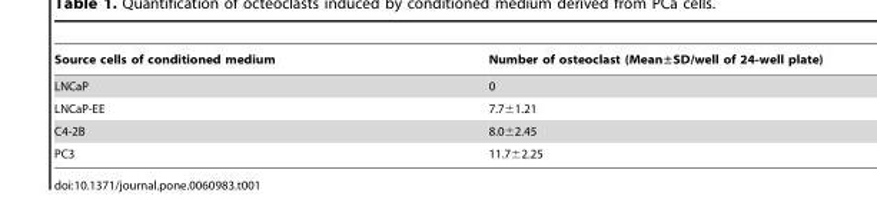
<table><thead><tr><td>Source cells of conditioned medium</td><td>Number of osteoclast (Mean±SD/well of 24-well plate)</td></tr></thead><tbody><tr><td>LNCaP</td><td>0</td></tr><tr><td>LNCaP-EE</td><td>7.7±1.21</td></tr><tr><td>C4-2B</td><td>8.0±2.45</td></tr><tr><td>PC3</td><td>11.7±2.25</td></tr></tbody></table>